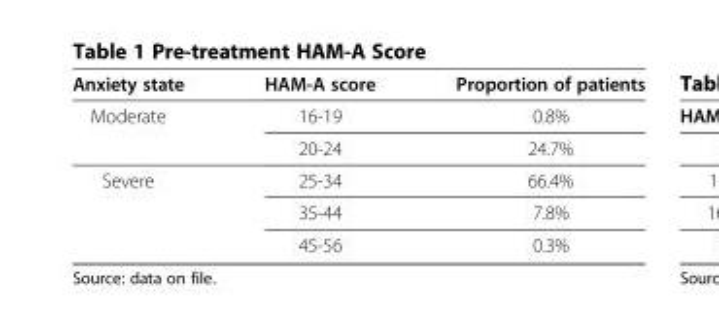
<table><thead><tr><td>Anxiety state</td><td>HAM-A score</td><td>Proportion of patients</td></tr></thead><tbody><tr><td rowspan="2">Moderate</td><td>16-19</td><td>0.8%</td></tr><tr><td>20-24</td><td>24.7%</td></tr><tr><td rowspan="3">Severe</td><td>25-34</td><td>66.4%</td></tr><tr><td>35-44</td><td>7.8%</td></tr><tr><td>45-56</td><td>0.3%</td></tr></tbody></table>